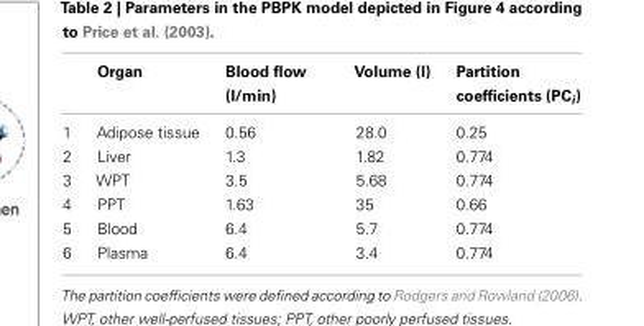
<table><thead><tr><td></td><td>Organ</td><td>Blood flow (l/min)</td><td>Volume (l)</td><td>Partition coefficients (PC<sub>i</sub>)</td></tr></thead><tbody><tr><td>1</td><td>Adipose tissue</td><td>0.56</td><td>28.0</td><td>0.25</td></tr><tr><td>2</td><td>Liver</td><td>1.3</td><td>1.82</td><td>0.774</td></tr><tr><td>3</td><td>WPT</td><td>3.5</td><td>5.68</td><td>0.774</td></tr><tr><td>4</td><td>PPT</td><td>1.63</td><td>35</td><td>0.66</td></tr><tr><td>5</td><td>Blood</td><td>6.4</td><td>5.7</td><td>0.774</td></tr><tr><td>6</td><td>Plasma</td><td>6.4</td><td>3.4</td><td>0.774</td></tr></tbody></table>